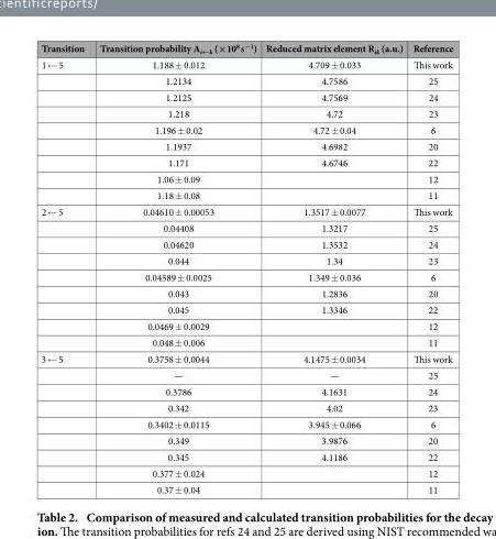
<table><thead><tr><td>Transition</td><td>Transition probability A<sub>i←k</sub> (×10<sup>8</sup> s<sup>−1</sup>)</td><td>Reduced matrix element R<sub>ik</sub> (a.u.)</td><td>Reference</td></tr></thead><tbody><tr><td rowspan="9">1 ← 5</td><td>1.188 ± 0.012</td><td>4.709 ± 0.033</td><td>This work</td></tr><tr><td>1.2134</td><td>4.7586</td><td>25</td></tr><tr><td>1.2125</td><td>4.7569</td><td>24</td></tr><tr><td>1.218</td><td>4.72</td><td>23</td></tr><tr><td>1.196 ± 0.02</td><td>4.72 ± 0.04</td><td>6</td></tr><tr><td>1.1937</td><td>4.6982</td><td>20</td></tr><tr><td>1.171</td><td>4.6746</td><td>22</td></tr><tr><td>1.06 ± 0.09</td><td></td><td>12</td></tr><tr><td>1.18 ± 0.08</td><td></td><td>11</td></tr><tr><td rowspan="9">2 ← 5</td><td>0.04610 ± 0.00053</td><td>1.3517 ± 0.0077</td><td>This work</td></tr><tr><td>0.04408</td><td>1.3217</td><td>25</td></tr><tr><td>0.04620</td><td>1.3532</td><td>24</td></tr><tr><td>0.044</td><td>1.34</td><td>23</td></tr><tr><td>0.04589 ± 0.0025</td><td>1.349 ± 0.036</td><td>6</td></tr><tr><td>0.043</td><td>1.2836</td><td>20</td></tr><tr><td>0.045</td><td>1.3346</td><td>22</td></tr><tr><td>0.0469 ± 0.0029</td><td></td><td>12</td></tr><tr><td>0.048 ± 0.006</td><td></td><td>11</td></tr><tr><td rowspan="9">3 ← 5</td><td>0.3758 ± 0.0044</td><td>4.1475 ± 0.0034</td><td>This work</td></tr><tr><td>—</td><td>—</td><td>25</td></tr><tr><td>0.3786</td><td>4.1631</td><td>24</td></tr><tr><td>0.342</td><td>4.02</td><td>23</td></tr><tr><td>0.3402 ± 0.0115</td><td>3.945 ± 0.066</td><td>6</td></tr><tr><td>0.349</td><td>3.9876</td><td>20</td></tr><tr><td>0.345</td><td>4.1186</td><td>22</td></tr><tr><td>0.377 ± 0.024</td><td></td><td>12</td></tr><tr><td>0.37 ± 0.04</td><td></td><td>11</td></tr></tbody></table>